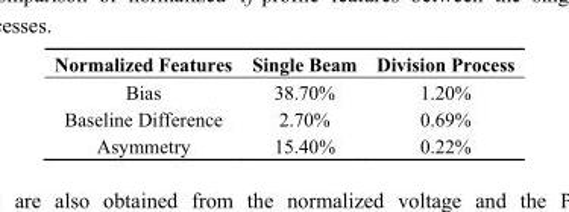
<table><thead><tr><td>Normalized Features</td><td>Single Beam</td><td>Division Process</td></tr></thead><tbody><tr><td>Bias</td><td>38.70%</td><td>1.20%</td></tr><tr><td>Baseline Difference</td><td>2.70%</td><td>0.69%</td></tr><tr><td>Asymmetry</td><td>15.40%</td><td>0.22%</td></tr></tbody></table>